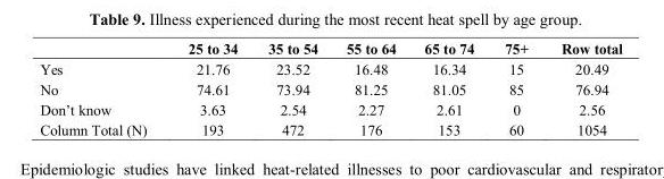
<table><thead><tr><td></td><td>25 to 34</td><td>35 to 54</td><td>55 to 64</td><td>65 to 74</td><td>75+</td><td>Row total</td></tr></thead><tbody><tr><td>Yes</td><td>21.76</td><td>23.52</td><td>16.48</td><td>16.34</td><td>15</td><td>20.49</td></tr><tr><td>No</td><td>74.61</td><td>73.94</td><td>81.25</td><td>81.05</td><td>85</td><td>76.94</td></tr><tr><td>Don’t know</td><td>3.63</td><td>2.54</td><td>2.27</td><td>2.61</td><td>0</td><td>2.56</td></tr><tr><td>Column Total (N)</td><td>193</td><td>472</td><td>176</td><td>153</td><td>60</td><td>1054</td></tr></tbody></table>